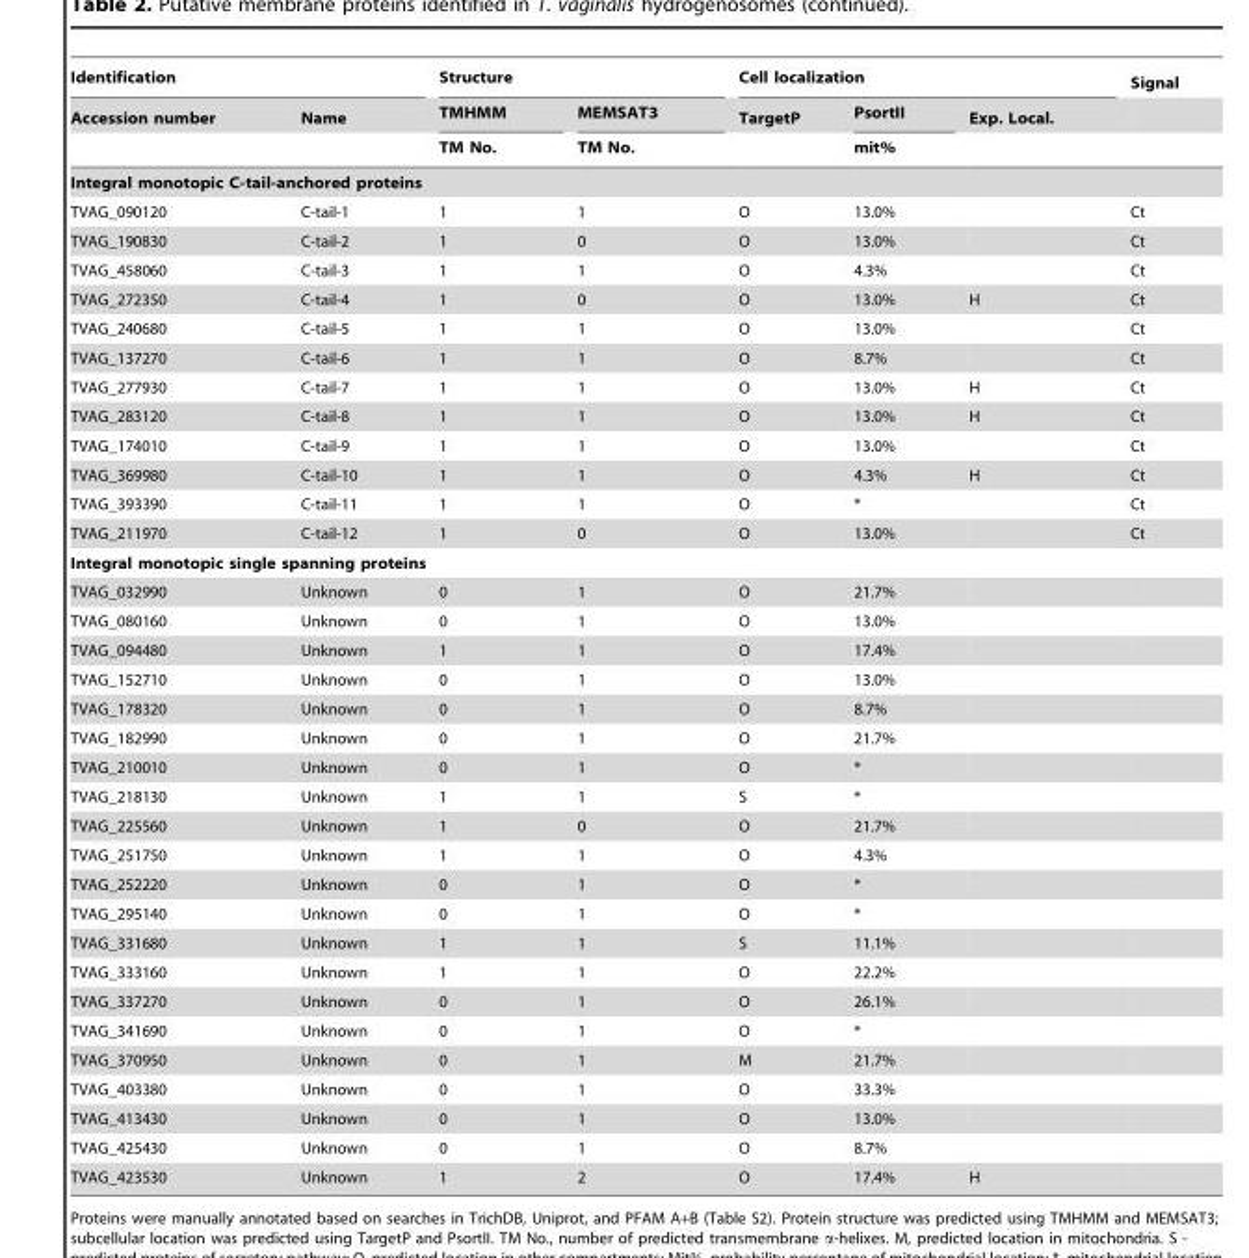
<table><thead><tr><td colspan="2">Identification</td><td colspan="2">Structure</td><td colspan="3">Cell localization</td><td rowspan="3">Signal</td></tr><tr><td rowspan="2">Accession number</td><td rowspan="2">Name</td><td rowspan="2">TMHMM TM No.</td><td rowspan="2">MEMSAT3 TM No.</td><td rowspan="2">TargetP</td><td rowspan="2">PsortII mit%</td><td rowspan="2">Exp. Local.</td></tr><tr></tr></thead><tbody><tr><td colspan="8">Integral monotopic C-tail-anchored proteins</td></tr><tr><td>TVAG_090120</td><td>C-tail-1</td><td>1</td><td>1</td><td>O</td><td>13.0%</td><td></td><td>Ct</td></tr><tr><td>TVAG_190830</td><td>C-tail-2</td><td>1</td><td>0</td><td>O</td><td>13.0%</td><td></td><td>Ct</td></tr><tr><td>TVAG_458060</td><td>C-tail-3</td><td>1</td><td>1</td><td>O</td><td>4.3%</td><td></td><td>Ct</td></tr><tr><td>TVAG_272350</td><td>C-tail-4</td><td>1</td><td>0</td><td>O</td><td>13.0%</td><td>H</td><td>Ct</td></tr><tr><td>TVAG_240680</td><td>C-tail-5</td><td>1</td><td>1</td><td>O</td><td>13.0%</td><td></td><td>Ct</td></tr><tr><td>TVAG_137270</td><td>C-tail-6</td><td>1</td><td>1</td><td>O</td><td>8.7%</td><td></td><td>Ct</td></tr><tr><td>TVAG_277930</td><td>C-tail-7</td><td>1</td><td>1</td><td>O</td><td>13.0%</td><td>H</td><td>Ct</td></tr><tr><td>TVAG_283120</td><td>C-tail-8</td><td>1</td><td>1</td><td>O</td><td>13.0%</td><td>H</td><td>Ct</td></tr><tr><td>TVAG_174010</td><td>C-tail-9</td><td>1</td><td>1</td><td>O</td><td>13.0%</td><td></td><td>Ct</td></tr><tr><td>TVAG_369980</td><td>C-tail-10</td><td>1</td><td>1</td><td>O</td><td>4.3%</td><td>H</td><td>Ct</td></tr><tr><td>TVAG_393390</td><td>C-tail-11</td><td>1</td><td>1</td><td>O</td><td>*</td><td></td><td>Ct</td></tr><tr><td>TVAG_211970</td><td>C-tail-12</td><td>1</td><td>0</td><td>O</td><td>13.0%</td><td></td><td>Ct</td></tr><tr><td colspan="8">Integral monotopic single spanning proteins</td></tr><tr><td>TVAG_032990</td><td>Unknown</td><td>0</td><td>1</td><td>O</td><td>21.7%</td><td></td><td></td></tr><tr><td>TVAG_080160</td><td>Unknown</td><td>0</td><td>1</td><td>O</td><td>13.0%</td><td></td><td></td></tr><tr><td>TVAG_094480</td><td>Unknown</td><td>1</td><td>1</td><td>O</td><td>17.4%</td><td></td><td></td></tr><tr><td>TVAG_152710</td><td>Unknown</td><td>0</td><td>1</td><td>O</td><td>13.0%</td><td></td><td></td></tr><tr><td>TVAG_178320</td><td>Unknown</td><td>0</td><td>1</td><td>O</td><td>8.7%</td><td></td><td></td></tr><tr><td>TVAG_182990</td><td>Unknown</td><td>0</td><td>1</td><td>O</td><td>21.7%</td><td></td><td></td></tr><tr><td>TVAG_210010</td><td>Unknown</td><td>0</td><td>1</td><td>O</td><td>*</td><td></td><td></td></tr><tr><td>TVAG_218130</td><td>Unknown</td><td>1</td><td>1</td><td>S</td><td>*</td><td></td><td></td></tr><tr><td>TVAG_225560</td><td>Unknown</td><td>1</td><td>0</td><td>O</td><td>21.7%</td><td></td><td></td></tr><tr><td>TVAG_251750</td><td>Unknown</td><td>1</td><td>1</td><td>O</td><td>4.3%</td><td></td><td></td></tr><tr><td>TVAG_252220</td><td>Unknown</td><td>0</td><td>1</td><td>O</td><td>*</td><td></td><td></td></tr><tr><td>TVAG_295140</td><td>Unknown</td><td>0</td><td>1</td><td>O</td><td>*</td><td></td><td></td></tr><tr><td>TVAG_331680</td><td>Unknown</td><td>1</td><td>1</td><td>S</td><td>11.1%</td><td></td><td></td></tr><tr><td>TVAG_333160</td><td>Unknown</td><td>1</td><td>1</td><td>O</td><td>22.2%</td><td></td><td></td></tr><tr><td>TVAG_337270</td><td>Unknown</td><td>0</td><td>1</td><td>O</td><td>26.1%</td><td></td><td></td></tr><tr><td>TVAG_341690</td><td>Unknown</td><td>0</td><td>1</td><td>O</td><td>*</td><td></td><td></td></tr><tr><td>TVAG_370950</td><td>Unknown</td><td>0</td><td>1</td><td>M</td><td>21.7%</td><td></td><td></td></tr><tr><td>TVAG_403380</td><td>Unknown</td><td>0</td><td>1</td><td>O</td><td>33.3%</td><td></td><td></td></tr><tr><td>TVAG_413430</td><td>Unknown</td><td>0</td><td>1</td><td>O</td><td>13.0%</td><td></td><td></td></tr><tr><td>TVAG_425430</td><td>Unknown</td><td>0</td><td>1</td><td>O</td><td>8.7%</td><td></td><td></td></tr><tr><td>TVAG_423530</td><td>Unknown</td><td>1</td><td>2</td><td>O</td><td>17.4%</td><td>H</td><td></td></tr></tbody></table>